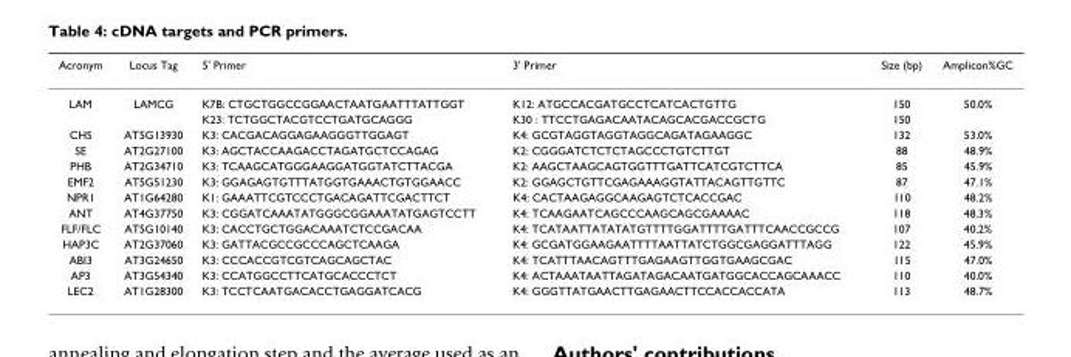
<table><thead><tr><td>Acronym</td><td>Locus Tag</td><td>5&#x27; Primer</td><td>3&#x27; Primer</td><td>Size (bp)</td><td>Amplicon%GC</td></tr></thead><tbody><tr><td rowspan="2">LAM</td><td>LAMCG</td><td>K7B: CTGCTGGCCGGAACTAATGAATTTATTGGT</td><td>K12: ATGCCACGATGCCTCATCACTGTTG</td><td>150</td><td>50.0%</td></tr><tr><td></td><td>K23: TCTGGCTACGTCCTGATGCAGGG</td><td>K30 : TTCCTGAGACAATACAGCACGACCGCTG</td><td>150</td><td></td></tr><tr><td>CHS</td><td>AT5G13930</td><td>K3: CACGACAGGAGAAGGGTTGGAGT</td><td>K4: GCGTAGGTAGGTAGGCAGATAGAAGGC</td><td>132</td><td>53.0%</td></tr><tr><td>SE</td><td>AT2G27100</td><td>K3: AGCTACCAAGACCTAGATGCTCCAGAG</td><td>K2: CGGGATCTCTCTAGCCCTGTCTTGT</td><td>88</td><td>48.9%</td></tr><tr><td>PHB</td><td>AT2G34710</td><td>K3: TCAAGCATGGGAAGGATGGTATCTTACGA</td><td>K2: AAGCTAAGCAGTGGTTTGATTCATCGTCTTCA</td><td>85</td><td>45.9%</td></tr><tr><td>EMF2</td><td>AT5G51230</td><td>K3: GGAGAGTGTTTATGGTGAAACTGTGGAACC</td><td>K2: GGAGCTGTTCGAGAAAGGTATTACAGTTGTTC</td><td>87</td><td>47.1%</td></tr><tr><td>NPR1</td><td>AT1G64280</td><td>K1: GAAATTCGTCCCTGACAGATTCGACTTCT</td><td>K4: CACTAAGAGGCAAGAGTCTCACCGAC</td><td>110</td><td>48.2%</td></tr><tr><td>ANT</td><td>AT4G37750</td><td>K3: CGGATCAAATATGGGCGGAAATATGAGTCCTT</td><td>K4: TCAAGAATCAGCCCAAGCAGCGAAAAC</td><td>118</td><td>48.3%</td></tr><tr><td>FLF/FLC</td><td>AT5G10140</td><td>K3: CACCTGCTGGACAAATCTCCGACAA</td><td>K4: TCATAATTATATATGTTTTGGATTTTGATTTCAACCGCCG</td><td>107</td><td>40.2%</td></tr><tr><td>HAP3C</td><td>AT2G37060</td><td>K3: GATTACGCCGCCCAGCTCAAGA</td><td>K4: GCGATGGAAGAATTTTAATTATCTGGCGAGGATTTAGG</td><td>122</td><td>45.9%</td></tr><tr><td>ABI3</td><td>AT3G24650</td><td>K3: CCCACCGTCGTCAGCAGCTAC</td><td>K4: TCATTTAACAGTTTGAGAAGTTGGTGAAGCGAC</td><td>115</td><td>47.0%</td></tr><tr><td>AP3</td><td>AT3G54340</td><td>K3: CCATGGCCTTCATGCACCCTCT</td><td>K4: ACTAAATAATTAGATAGACAATGATGGCACCAGCAAACC</td><td>110</td><td>40.0%</td></tr><tr><td>LEC2</td><td>AT1G28300</td><td>K3: TCCTCAATGACACCTGAGGATCACG</td><td>K4: GGGTTATGAACTTGAGAACTTCCACCACCATA</td><td>113</td><td>48.7%</td></tr></tbody></table>